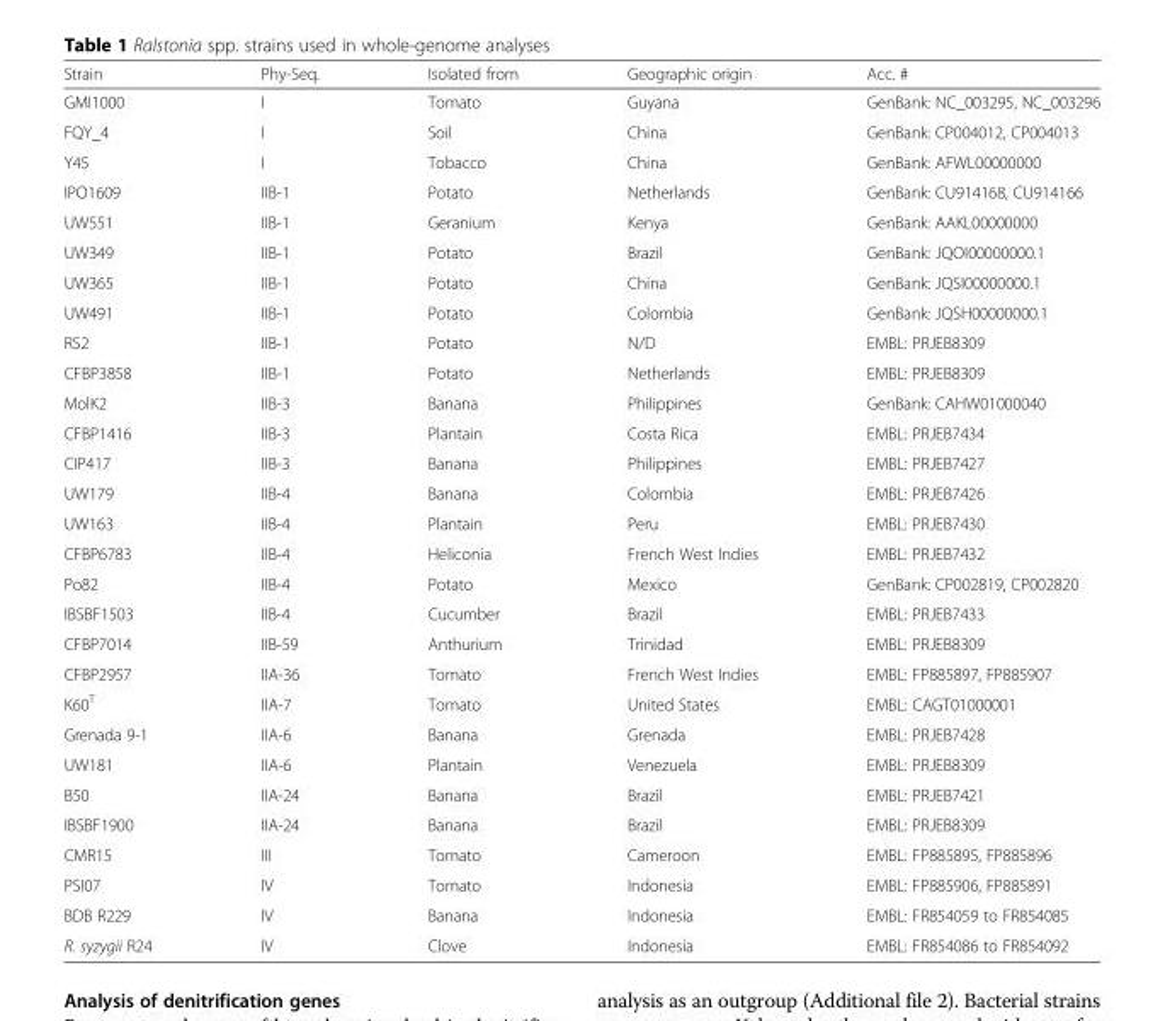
<table><thead><tr><td>Strain</td><td>Phy-Seq.</td><td>Isolated from</td><td>Geographic origin</td><td>Acc. #</td></tr></thead><tbody><tr><td>GMI1000</td><td>I</td><td>Tomato</td><td>Guyana</td><td>GenBank: NC_003295, NC_003296</td></tr><tr><td>FQY_4</td><td>I</td><td>Soil</td><td>China</td><td>GenBank: CP004012, CP004013</td></tr><tr><td>Y45</td><td>I</td><td>Tobacco</td><td>China</td><td>GenBank: AFWL00000000</td></tr><tr><td>IPO1609</td><td>IIB-1</td><td>Potato</td><td>Netherlands</td><td>GenBank: CU914168, CU914166</td></tr><tr><td>UW551</td><td>IIB-1</td><td>Geranium</td><td>Kenya</td><td>GenBank: AAKL00000000</td></tr><tr><td>UW349</td><td>IIB-1</td><td>Potato</td><td>Brazil</td><td>GenBank: JQOI00000000.1</td></tr><tr><td>UW365</td><td>IIB-1</td><td>Potato</td><td>China</td><td>GenBank: JQSI00000000.1</td></tr><tr><td>UW491</td><td>IIB-1</td><td>Potato</td><td>Colombia</td><td>GenBank: JQSH00000000.1</td></tr><tr><td>RS2</td><td>IIB-1</td><td>Potato</td><td>N/D</td><td>EMBL: PRJEB8309</td></tr><tr><td>CFBP3858</td><td>IIB-1</td><td>Potato</td><td>Netherlands</td><td>EMBL: PRJEB8309</td></tr><tr><td>MolK2</td><td>IIB-3</td><td>Banana</td><td>Philippines</td><td>GenBank: CAHW01000040</td></tr><tr><td>CFBP1416</td><td>IIB-3</td><td>Plantain</td><td>Costa Rica</td><td>EMBL: PRJEB7434</td></tr><tr><td>CIP417</td><td>IIB-3</td><td>Banana</td><td>Philippines</td><td>EMBL: PRJEB7427</td></tr><tr><td>UW179</td><td>IIB-4</td><td>Banana</td><td>Colombia</td><td>EMBL: PRJEB7426</td></tr><tr><td>UW163</td><td>IIB-4</td><td>Plantain</td><td>Peru</td><td>EMBL: PRJEB7430</td></tr><tr><td>CFBP6783</td><td>IIB-4</td><td>Heliconia</td><td>French West Indies</td><td>EMBL: PRJEB7432</td></tr><tr><td>Po82</td><td>IIB-4</td><td>Potato</td><td>Mexico</td><td>GenBank: CP002819, CP002820</td></tr><tr><td>IBSBF1503</td><td>IIB-4</td><td>Cucumber</td><td>Brazil</td><td>EMBL: PRJEB7433</td></tr><tr><td>CFBP7014</td><td>IIB-59</td><td>Anthurium</td><td>Trinidad</td><td>EMBL: PRJEB8309</td></tr><tr><td>CFBP2957</td><td>IIA-36</td><td>Tomato</td><td>French West Indies</td><td>EMBL: FP885897, FP885907</td></tr><tr><td>K60<sup>T</sup></td><td>IIA-7</td><td>Tomato</td><td>United States</td><td>EMBL: CAGT01000001</td></tr><tr><td>Grenada 9-1</td><td>IIA-6</td><td>Banana</td><td>Grenada</td><td>EMBL: PRJEB7428</td></tr><tr><td>UW181</td><td>IIA-6</td><td>Plantain</td><td>Venezuela</td><td>EMBL: PRJEB8309</td></tr><tr><td>B50</td><td>IIA-24</td><td>Banana</td><td>Brazil</td><td>EMBL: PRJEB7421</td></tr><tr><td>IBSBF1900</td><td>IIA-24</td><td>Banana</td><td>Brazil</td><td>EMBL: PRJEB8309</td></tr><tr><td>CMR15</td><td>III</td><td>Tomato</td><td>Cameroon</td><td>EMBL: FP885895, FP885896</td></tr><tr><td>PSI07</td><td>IV</td><td>Tomato</td><td>Indonesia</td><td>EMBL: FP885906, FP885891</td></tr><tr><td>BDB R229</td><td>IV</td><td>Banana</td><td>Indonesia</td><td>EMBL: FR854059 to FR854085</td></tr><tr><td>R. syzygii R24</td><td>IV</td><td>Clove</td><td>Indonesia</td><td>EMBL: FR854086 to FR854092</td></tr></tbody></table>